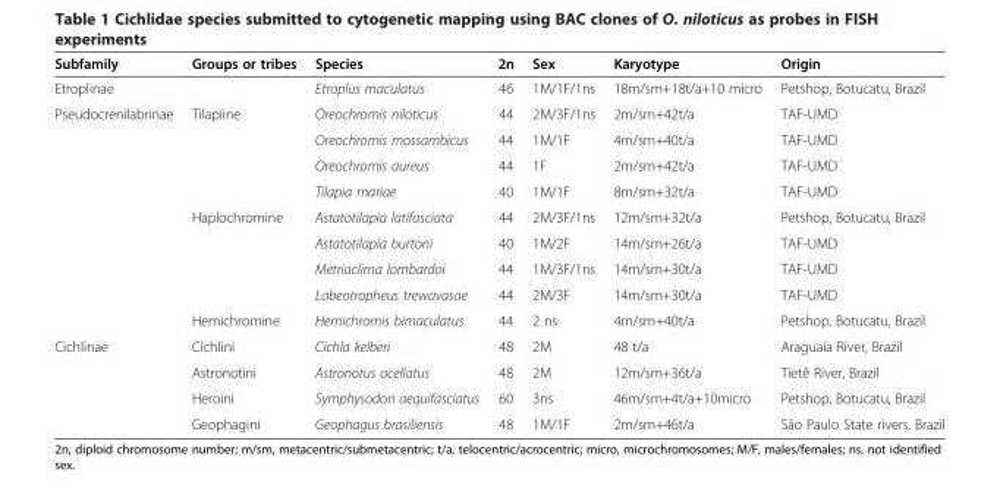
<table><thead><tr><td>Subfamily</td><td>Groups or tribes</td><td>Species</td><td>2n</td><td>Sex</td><td>Karyotype</td><td>Origin</td></tr></thead><tbody><tr><td>Etroplinae</td><td></td><td>Etroplus maculatus</td><td>46</td><td>1M/1F/1ns</td><td>18m/sm+18t/a+10 micro</td><td>Petshop, Botucatu, Brazil</td></tr><tr><td rowspan="9">Pseudocrenilabrinae</td><td>Tilapiine</td><td>Oreochromis niloticus</td><td>44</td><td>2M/3F/1ns</td><td>2m/sm+42t/a</td><td>TAF-UMD</td></tr><tr><td></td><td>Oreochromis mossambicus</td><td>44</td><td>1M/1F</td><td>4m/sm+40t/a</td><td>TAF-UMD</td></tr><tr><td></td><td>Oreochromis aureus</td><td>44</td><td>1F</td><td>2m/sm+42t/a</td><td>TAF-UMD</td></tr><tr><td></td><td>Tilapia mariae</td><td>40</td><td>1M/1F</td><td>8m/sm+32t/a</td><td>TAF-UMD</td></tr><tr><td>Haplochromine</td><td>Astatotilapia latifasciata</td><td>44</td><td>2M/3F/1ns</td><td>12m/sm+32t/a</td><td>Petshop, Botucatu, Brazil</td></tr><tr><td></td><td>Astatotilapia burtoni</td><td>40</td><td>1M/2F</td><td>14m/sm+26t/a</td><td>TAF-UMD</td></tr><tr><td></td><td>Metriaclima lombardoi</td><td>44</td><td>1M/3F/1ns</td><td>14m/sm+30t/a</td><td>TAF-UMD</td></tr><tr><td></td><td>Labeotropheus trewavasae</td><td>44</td><td>2M/3F</td><td>14m/sm+30t/a</td><td>TAF-UMD</td></tr><tr><td>Hemichromine</td><td>Hemichromis bimaculatus</td><td>44</td><td>2 ns</td><td>4m/sm+40t/a</td><td>Petshop, Botucatu, Brazil</td></tr><tr><td rowspan="4">Cichlinae</td><td>Cichlini</td><td>Cichla kelberi</td><td>48</td><td>2M</td><td>48 t/a</td><td>Araguaia River, Brazil</td></tr><tr><td>Astronotini</td><td>Astronotus ocellatus</td><td>48</td><td>2M</td><td>12m/sm+36t/a</td><td>Tietê River, Brazil</td></tr><tr><td>Heroini</td><td>Symphysodon aequifasciatus</td><td>60</td><td>3ns</td><td>46m/sm+4t/a+10micro</td><td>Petshop, Botucatu, Brazil</td></tr><tr><td>Geophagini</td><td>Geophagus brasiliensis</td><td>48</td><td>1M/1F</td><td>2m/sm+46t/a</td><td>São Paulo State rivers, Brazil</td></tr></tbody></table>